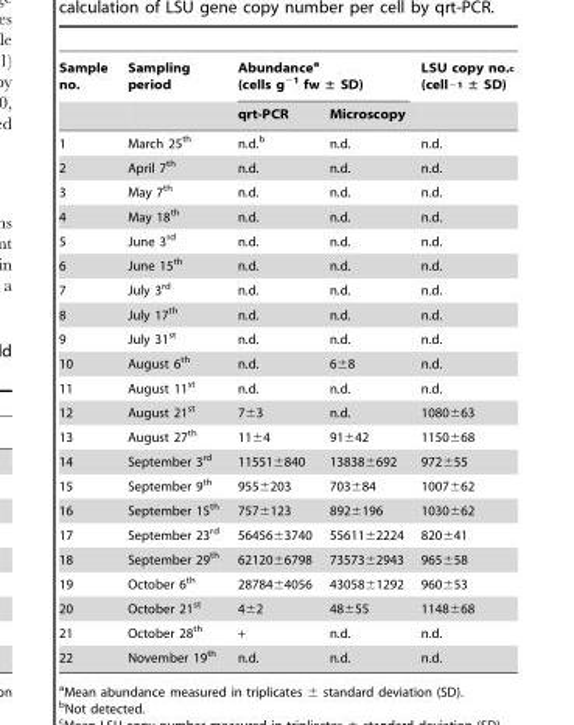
<table><thead><tr><td rowspan="2">Sample no.</td><td rowspan="2">Sampling period</td><td colspan="2">Abundance<sup>a</sup> (cells g<sup>−1</sup> fw ± SD)</td><td rowspan="2">LSU copy no.<sup>c</sup> (cell<sup>−1</sup> ± SD)</td></tr><tr><td>qrt-PCR</td><td>Microscopy</td></tr></thead><tbody><tr><td>1</td><td>March 25<sup>th</sup></td><td>n.d.<sup>b</sup></td><td>n.d.</td><td>n.d.</td></tr><tr><td>2</td><td>April 7<sup>th</sup></td><td>n.d.</td><td>n.d.</td><td>n.d.</td></tr><tr><td>3</td><td>May 7<sup>th</sup></td><td>n.d.</td><td>n.d.</td><td>n.d.</td></tr><tr><td>4</td><td>May 18<sup>th</sup></td><td>n.d.</td><td>n.d.</td><td>n.d.</td></tr><tr><td>5</td><td>June 3<sup>rd</sup></td><td>n.d.</td><td>n.d.</td><td>n.d.</td></tr><tr><td>6</td><td>June 15<sup>th</sup></td><td>n.d.</td><td>n.d.</td><td>n.d.</td></tr><tr><td>7</td><td>July 3<sup>rd</sup></td><td>n.d.</td><td>n.d.</td><td>n.d.</td></tr><tr><td>8</td><td>July 17<sup>th</sup></td><td>n.d.</td><td>n.d.</td><td>n.d.</td></tr><tr><td>9</td><td>July 31<sup>st</sup></td><td>n.d.</td><td>n.d.</td><td>n.d.</td></tr><tr><td>10</td><td>August 6<sup>th</sup></td><td>n.d.</td><td>6±8</td><td>n.d.</td></tr><tr><td>11</td><td>August 11<sup>st</sup></td><td>n.d.</td><td>n.d.</td><td>n.d.</td></tr><tr><td>12</td><td>August 21<sup>st</sup></td><td>7±3</td><td>n.d.</td><td>1080±63</td></tr><tr><td>13</td><td>August 27<sup>th</sup></td><td>11±4</td><td>91±42</td><td>1150±68</td></tr><tr><td>14</td><td>September 3<sup>rd</sup></td><td>11551±840</td><td>13838±692</td><td>972±55</td></tr><tr><td>15</td><td>September 9<sup>th</sup></td><td>955±203</td><td>703±84</td><td>1007±62</td></tr><tr><td>16</td><td>September 15<sup>th</sup></td><td>757±123</td><td>892±196</td><td>1030±62</td></tr><tr><td>17</td><td>September 23<sup>rd</sup></td><td>56456±3740</td><td>55611±2224</td><td>820±41</td></tr><tr><td>18</td><td>September 29<sup>th</sup></td><td>62120±6798</td><td>73573±2943</td><td>965±58</td></tr><tr><td>19</td><td>October 6<sup>th</sup></td><td>28784±4056</td><td>43058±1292</td><td>960±53</td></tr><tr><td>20</td><td>October 21<sup>st</sup></td><td>4±2</td><td>48±55</td><td>1148±68</td></tr><tr><td>21</td><td>October 28<sup>th</sup></td><td>+</td><td>n.d.</td><td>n.d.</td></tr><tr><td>22</td><td>November 19<sup>th</sup></td><td>n.d.</td><td>n.d.</td><td>n.d.</td></tr></tbody></table>